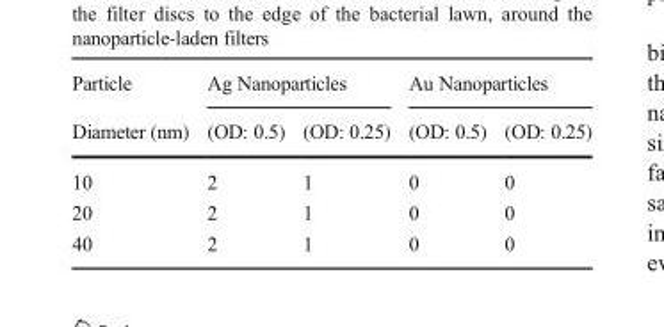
<table><thead><tr><td rowspan="2">Particle Diameter (nm)</td><td colspan="2">Ag Nanoparticles</td><td colspan="2">Au Nanoparticles</td></tr><tr><td>(OD: 0.5)</td><td>(OD: 0.25)</td><td>(OD: 0.5)</td><td>(OD: 0.25)</td></tr></thead><tbody><tr><td>10</td><td>2</td><td>1</td><td>0</td><td>0</td></tr><tr><td>20</td><td>2</td><td>1</td><td>0</td><td>0</td></tr><tr><td>40</td><td>2</td><td>1</td><td>0</td><td>0</td></tr></tbody></table>